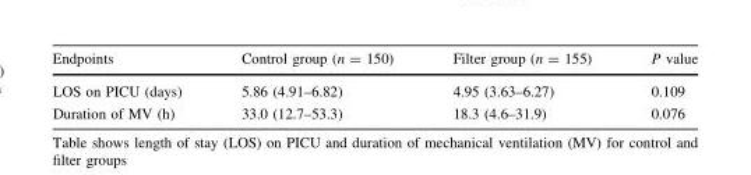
<table><thead><tr><td>Endpoints</td><td>Control group (n = 150)</td><td>Filter group (n = 155)</td><td>P value</td></tr></thead><tbody><tr><td>LOS on PICU (days)</td><td>5.86 (4.91–6.82)</td><td>4.95 (3.63–6.27)</td><td>0.109</td></tr><tr><td>Duration of MV (h)</td><td>33.0 (12.7–53.3)</td><td>18.3 (4.6–31.9)</td><td>0.076</td></tr></tbody></table>